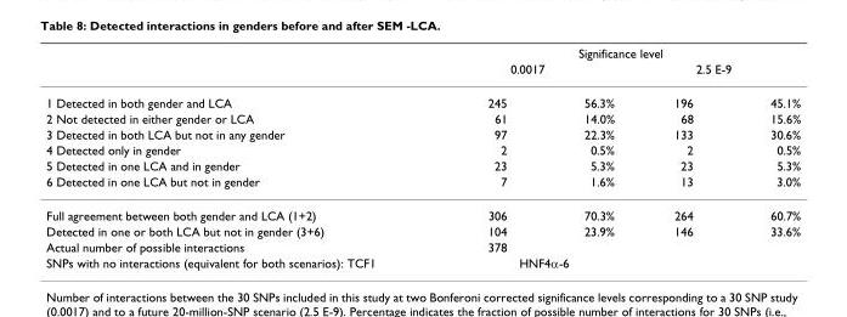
<table><thead><tr><td rowspan="3">1 Detected in both gender and LCA</td><td colspan="4">Significance level</td></tr><tr><td colspan="2">0.0017</td><td colspan="2">2.5 E-9</td></tr><tr><td>245</td><td>56.3%</td><td>196</td><td>45.1%</td></tr></thead><tbody><tr><td>2 Not detected in either gender or LCA</td><td>61</td><td>14.0%</td><td>68</td><td>15.6%</td></tr><tr><td>3 Detected in both LCA but not in any gender</td><td>97</td><td>22.3%</td><td>133</td><td>30.6%</td></tr><tr><td>4 Detected only in gender</td><td>2</td><td>0.5%</td><td>2</td><td>0.5%</td></tr><tr><td>5 Detected in one LCA and in gender</td><td>23</td><td>5.3%</td><td>23</td><td>5.3%</td></tr><tr><td>6 Detected in one LCA but not in gender</td><td>7</td><td>1.6%</td><td>13</td><td>3.0%</td></tr><tr><td>Full agreement between both gender and LCA (1+2)</td><td>306</td><td>70.3%</td><td>264</td><td>60.7%</td></tr><tr><td>Detected in one or both LCA but not in gender (3+6)</td><td>104</td><td>23.9%</td><td>146</td><td>33.6%</td></tr><tr><td>Actual number of possible interactions</td><td>378</td><td></td><td></td><td></td></tr><tr><td>SNPs with no interactions (equivalent for both scenarios): TCF1</td><td></td><td colspan="3">HNF4α-6</td></tr></tbody></table>